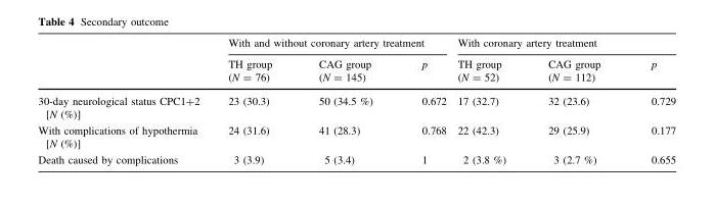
<table><thead><tr><td rowspan="2"></td><td colspan="3">With and without coronary artery treatment</td><td colspan="3">With coronary artery treatment</td></tr><tr><td>TH group (N = 76)</td><td>CAG group (N = 145)</td><td>p</td><td>TH group (N = 52)</td><td>CAG group (N = 112)</td><td>p</td></tr></thead><tbody><tr><td>30-day neurological status CPC1+2 [N (%)]</td><td>23 (30.3)</td><td>50 (34.5 %)</td><td>0.672</td><td>17 (32.7)</td><td>32 (23.6)</td><td>0.729</td></tr><tr><td>With complications of hypothermia [N (%)]</td><td>24 (31.6)</td><td>41 (28.3)</td><td>0.768</td><td>22 (42.3)</td><td>29 (25.9)</td><td>0.177</td></tr><tr><td>Death caused by complications</td><td>3 (3.9)</td><td>5 (3.4)</td><td>1</td><td>2 (3.8 %)</td><td>3 (2.7 %)</td><td>0.655</td></tr></tbody></table>